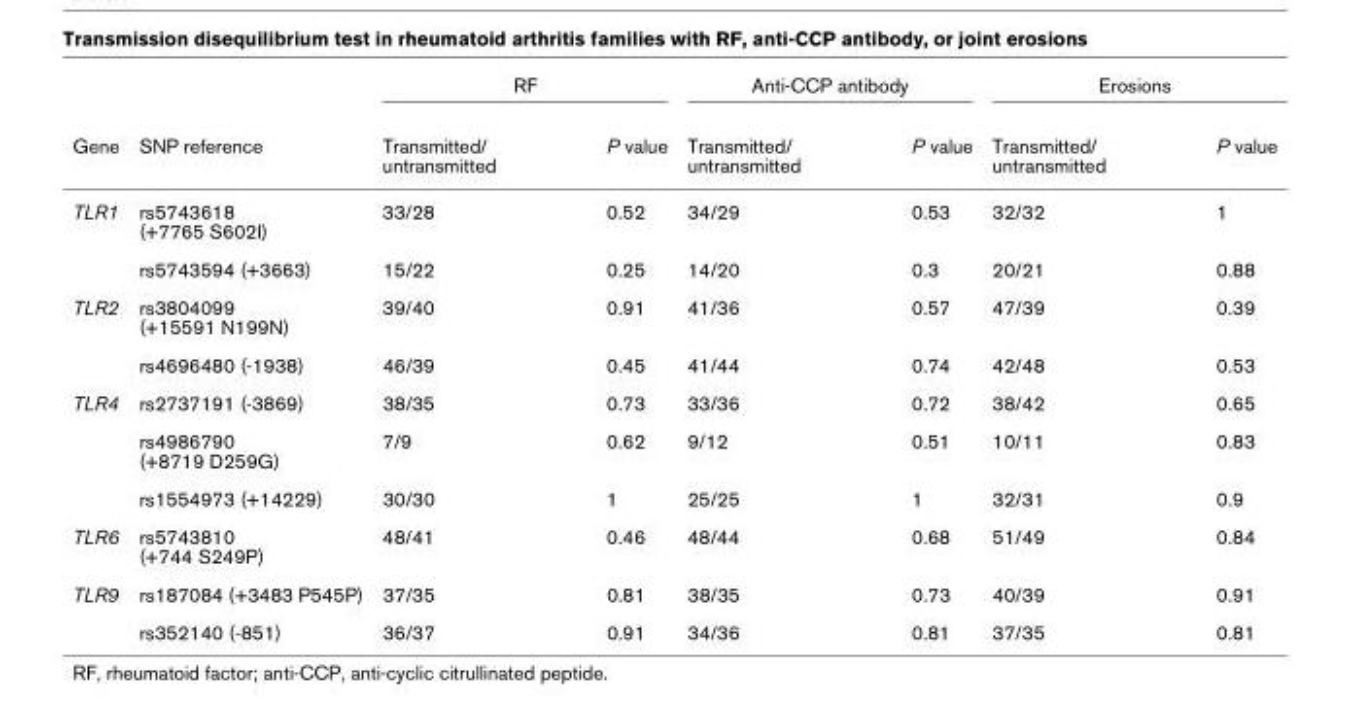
<table><thead><tr><td rowspan="2">Gene</td><td rowspan="2">SNP reference</td><td colspan="2">RF</td><td colspan="2">Anti-CCP antibody</td><td colspan="2">Erosions</td></tr><tr><td>Transmitted/ untransmitted</td><td>P value</td><td>Transmitted/ untransmitted</td><td>P value</td><td>Transmitted/ untransmitted</td><td>P value</td></tr></thead><tbody><tr><td rowspan="2">TLR1</td><td>rs5743618 (+7765 S602I)</td><td>33/28</td><td>0.52</td><td>34/29</td><td>0.53</td><td>32/32</td><td>1</td></tr><tr><td>rs5743594 (+3663)</td><td>15/22</td><td>0.25</td><td>14/20</td><td>0.3</td><td>20/21</td><td>0.88</td></tr><tr><td rowspan="2">TLR2</td><td>rs3804099 (+15591 N199N)</td><td>39/40</td><td>0.91</td><td>41/36</td><td>0.57</td><td>47/39</td><td>0.39</td></tr><tr><td>rs4696480 (-1938)</td><td>46/39</td><td>0.45</td><td>41/44</td><td>0.74</td><td>42/48</td><td>0.53</td></tr><tr><td rowspan="3">TLR4</td><td>rs2737191 (-3869)</td><td>38/35</td><td>0.73</td><td>33/36</td><td>0.72</td><td>38/42</td><td>0.65</td></tr><tr><td>rs4986790 (+8719 D259G)</td><td>7/9</td><td>0.62</td><td>9/12</td><td>0.51</td><td>10/11</td><td>0.83</td></tr><tr><td>rs1554973 (+14229)</td><td>30/30</td><td>1</td><td>25/25</td><td>1</td><td>32/31</td><td>0.9</td></tr><tr><td>TLR6</td><td>rs5743810 (+744 S249P)</td><td>48/41</td><td>0.46</td><td>48/44</td><td>0.68</td><td>51/49</td><td>0.84</td></tr><tr><td rowspan="2">TLR9</td><td>rs187084 (+3483 P545P)</td><td>37/35</td><td>0.81</td><td>38/35</td><td>0.73</td><td>40/39</td><td>0.91</td></tr><tr><td>rs352140 (-851)</td><td>36/37</td><td>0.91</td><td>34/36</td><td>0.81</td><td>37/35</td><td>0.81</td></tr></tbody></table>